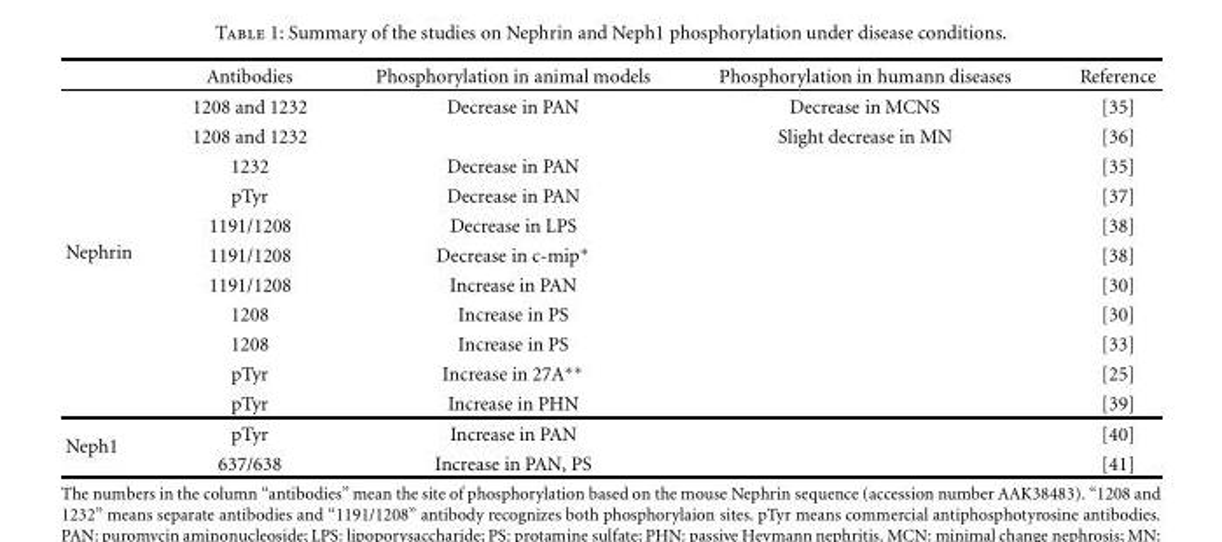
<table><thead><tr><td></td><td>Antibodies</td><td>Phosphorylation in animal models</td><td>Phosphorylation in humann diseases</td><td>Reference</td></tr></thead><tbody><tr><td rowspan="11">Nephrin</td><td>1208 and 1232</td><td>Decrease in PAN</td><td>Decrease in MCNS</td><td>[35]</td></tr><tr><td>1208 and 1232</td><td></td><td>Slight decrease in MN</td><td>[36]</td></tr><tr><td>1232</td><td>Decrease in PAN</td><td></td><td>[35]</td></tr><tr><td>pTyr</td><td>Decrease in PAN</td><td></td><td>[37]</td></tr><tr><td>1191/1208</td><td>Decrease in LPS</td><td></td><td>[38]</td></tr><tr><td>1191/1208</td><td>Decrease in c-mip∗</td><td></td><td>[38]</td></tr><tr><td>1191/1208</td><td>Increase in PAN</td><td></td><td>[30]</td></tr><tr><td>1208</td><td>Increase in PS</td><td></td><td>[30]</td></tr><tr><td>1208</td><td>Increase in PS</td><td></td><td>[33]</td></tr><tr><td>pTyr</td><td>Increase in 27A∗∗</td><td></td><td>[25]</td></tr><tr><td>pTyr</td><td>Increase in PHN</td><td></td><td>[39]</td></tr><tr><td rowspan="2">Neph1</td><td>pTyr</td><td>Increase in PAN</td><td></td><td>[40]</td></tr><tr><td>637/638</td><td>Increase in PAN, PS</td><td></td><td>[41]</td></tr></tbody></table>